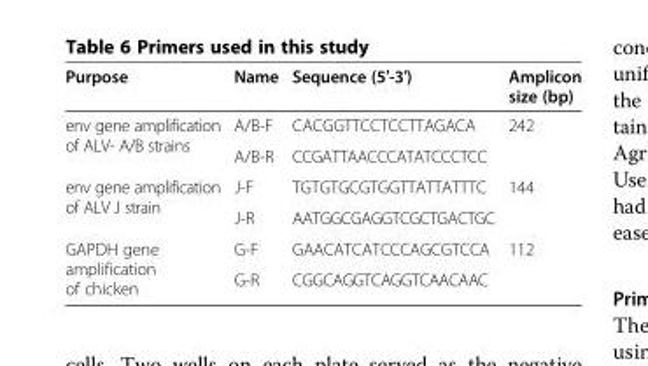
<table><thead><tr><td>Purpose</td><td>Name</td><td>Sequence (5′-3′)</td><td>Amplicon size (bp)</td></tr></thead><tbody><tr><td rowspan="2">env gene amplification of ALV- A/B strains</td><td>A/B-F</td><td>CACGGTTCCTCCTTAGACA</td><td rowspan="2">242</td></tr><tr><td>A/B-R</td><td>CCGATTAACCCATATCCCTCC</td></tr><tr><td rowspan="2">env gene amplification of ALV J strain</td><td>J-F</td><td>TGTGTGCGTGGTTATTATTTC</td><td rowspan="2">144</td></tr><tr><td>J-R</td><td>AATGGCGAGGTCGCTGACTGC</td></tr><tr><td rowspan="2">GAPDH gene amplification of chicken</td><td>G-F</td><td>GAACATCATCCCAGCGTCCA</td><td rowspan="2">112</td></tr><tr><td>G-R</td><td>CGGCAGGTCAGGTCAACAAC</td></tr></tbody></table>